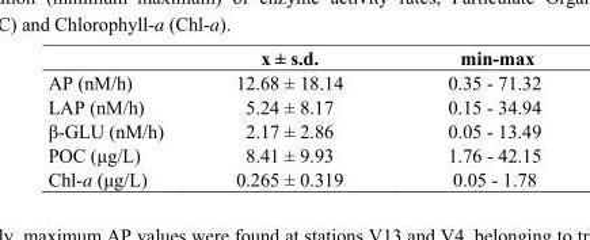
<table><thead><tr><td></td><td>x ± s.d.</td><td>min-max</td></tr></thead><tbody><tr><td>AP (nM/h)</td><td>12.68 ± 18.14</td><td>0.35 - 71.32</td></tr><tr><td>LAP (nM/h)</td><td>5.24 ± 8.17</td><td>0.15 - 34.94</td></tr><tr><td>β-GLU (nM/h)</td><td>2.17 ± 2.86</td><td>0.05 - 13.49</td></tr><tr><td>POC (μg/L)</td><td>8.41 ± 9.93</td><td>1.76 - 42.15</td></tr><tr><td>Chl-a (μg/L)</td><td>0.265 ± 0.319</td><td>0.05 - 1.78</td></tr></tbody></table>